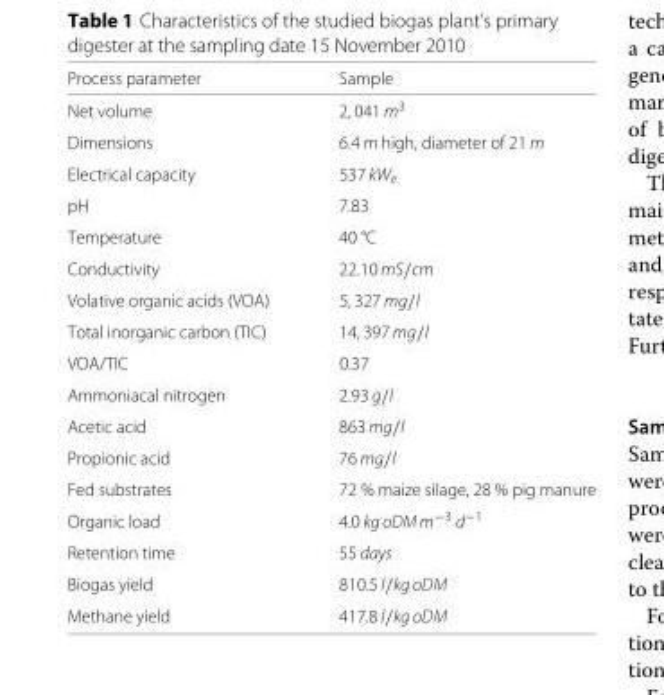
<table><thead><tr><td>Process parameter</td><td>Sample</td></tr></thead><tbody><tr><td>Net volume</td><td>2, 041 m<sup>3</sup></td></tr><tr><td>Dimensions</td><td>6.4 m high, diameter of 21 m</td></tr><tr><td>Electrical capacity</td><td>537 kW<sub>e</sub></td></tr><tr><td>pH</td><td>7.83</td></tr><tr><td>Temperature</td><td>40 °C</td></tr><tr><td>Conductivity</td><td>22.10 mS/cm</td></tr><tr><td>Volative organic acids (VOA)</td><td>5, 327 mg/l</td></tr><tr><td>Total inorganic carbon (TIC)</td><td>14, 397 mg/l</td></tr><tr><td>VOA/TIC</td><td>0.37</td></tr><tr><td>Ammoniacal nitrogen</td><td>2.93 g/l</td></tr><tr><td>Acetic acid</td><td>863 mg/l</td></tr><tr><td>Propionic acid</td><td>76 mg/l</td></tr><tr><td>Fed substrates</td><td>72 % maize silage, 28 % pig manure</td></tr><tr><td>Organic load</td><td>4.0 kg oDM m<sup>−3</sup> d<sup>−1</sup></td></tr><tr><td>Retention time</td><td>55 days</td></tr><tr><td>Biogas yield</td><td>810.5 l/kg oDM</td></tr><tr><td>Methane yield</td><td>417.8 l/kg oDM</td></tr></tbody></table>